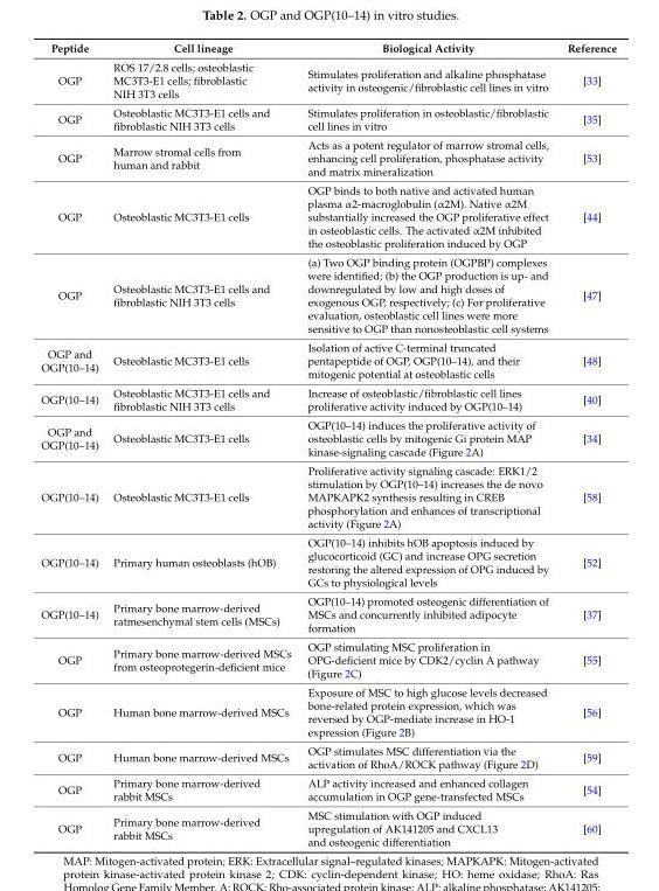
<table><thead><tr><td>Peptide</td><td>Cell lineage</td><td>Biological Activity</td><td>Reference</td></tr></thead><tbody><tr><td>OGP</td><td>ROS 17/2.8 cells; osteoblastic MC3T3-E1 cells; fibroblastic NIH 3T3 cells</td><td>Stimulates proliferation and alkaline phosphatase activity in osteogenic/fibroblastic cell lines in vitro</td><td>[33]</td></tr><tr><td>OGP</td><td>Osteoblastic MC3T3-E1 cells and fibroblastic NIH 3T3 cells</td><td>Stimulates proliferation in osteoblastic/fibroblastic cell lines in vitro</td><td>[35]</td></tr><tr><td>OGP</td><td>Marrow stromal cells from human and rabbit</td><td>Acts as a potent regulator of marrow stromal cells, enhancing cell proliferation, phosphatase activity and matrix mineralization</td><td>[53]</td></tr><tr><td>OGP</td><td>Osteoblastic MC3T3-E1 cells</td><td>OGP binds to both native and activated human plasma α2-macroglobulin (α2M). Native α2M substantially increased the OGP proliferative effect in osteoblastic cells. The activated α2M inhibited the osteoblastic proliferation induced by OGP</td><td>[44]</td></tr><tr><td>OGP</td><td>Osteoblastic MC3T3-E1 cells and fibroblastic NIH 3T3 cells</td><td>(a) Two OGP binding protein (OGPBP) complexes were identified; (b) the OGP production is up- and downregulated by low and high doses of exogenous OGP, respectively; (c) For proliferative evaluation, osteoblastic cell lines were more sensitive to OGP than nonosteoblastic cell systems</td><td>[47]</td></tr><tr><td>OGP and OGP(10–14)</td><td>Osteoblastic MC3T3-E1 cells</td><td>Isolation of active C-terminal truncated pentapeptide of OGP, OGP(10–14), and their mitogenic potential at osteoblastic cells</td><td>[48]</td></tr><tr><td>OGP(10–14)</td><td>Osteoblastic MC3T3-E1 cells and fibroblastic NIH 3T3 cells</td><td>Increase of osteoblastic/fibroblastic cell lines proliferative activity induced by OGP(10–14)</td><td>[40]</td></tr><tr><td>OGP and OGP(10–14)</td><td>Osteoblastic MC3T3-E1 cells</td><td>OGP(10–14) induces the proliferative activity of osteoblastic cells by mitogenic Gi protein MAP kinase-signaling cascade (Figure 2A)</td><td>[34]</td></tr><tr><td>OGP(10–14)</td><td>Osteoblastic MC3T3-E1 cells</td><td>Proliferative activity signaling cascade: ERK1/2 stimulation by OGP(10–14) increases the de novo MAPKAPK2 synthesis resulting in CREB phosphorylation and enhances of transcriptional activity (Figure 2A)</td><td>[58]</td></tr><tr><td>OGP(10–14)</td><td>Primary human osteoblasts (hOB)</td><td>OGP(10–14) inhibits hOB apoptosis induced by glucocorticoid (GC) and increase OPG secretion restoring the altered expression of OPG induced by GCs to physiological levels</td><td>[52]</td></tr><tr><td>OGP(10–14)</td><td>Primary bone marrow-derived ratmesenchymal stem cells (MSCs)</td><td>OGP(10–14) promoted osteogenic differentiation of MSCs and concurrently inhibited adipocyte formation</td><td>[37]</td></tr><tr><td>OGP</td><td>Primary bone marrow-derived MSCs from osteoprotegerin-deficient mice</td><td>OGP stimulating MSC proliferation in OPG-deficient mice by CDK2/cyclin A pathway (Figure 2C)</td><td>[55]</td></tr><tr><td>OGP</td><td>Human bone marrow-derived MSCs</td><td>Exposure of MSC to high glucose levels decreased bone-related protein expression, which was reversed by OGP-mediate increase in HO-1 expression (Figure 2B)</td><td>[56]</td></tr><tr><td>OGP</td><td>Human bone marrow-derived MSCs</td><td>OGP stimulates MSC differentiation via the activation of RhoA/ROCK pathway (Figure 2D)</td><td>[59]</td></tr><tr><td>OGP</td><td>Primary bone marrow-derived rabbit MSCs</td><td>ALP activity increased and enhanced collagen accumulation in OGP gene-transfected MSCs</td><td>[54]</td></tr><tr><td>OGP</td><td>Primary bone marrow-derived rabbit MSCs</td><td>MSC stimulation with OGP induced upregulation of AK141205 and CXCL13 and osteogenic differentiation</td><td>[60]</td></tr></tbody></table>